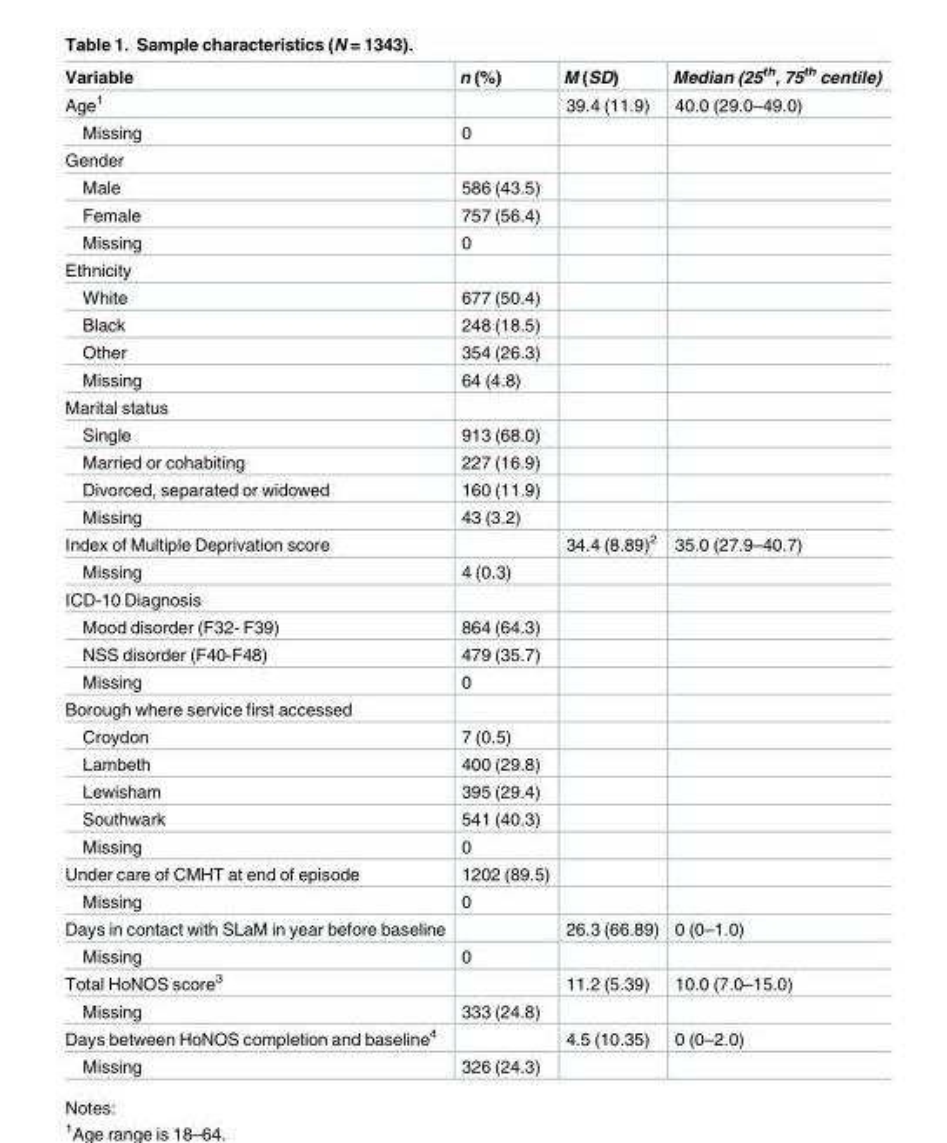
<table><thead><tr><td>Variable</td><td>n (%)</td><td>M (SD)</td><td>Median (25<sup>th</sup>, 75<sup>th</sup> centile)</td></tr></thead><tbody><tr><td>Age<sup>1</sup></td><td></td><td>39.4 (11.9)</td><td>40.0 (29.0–49.0)</td></tr><tr><td>Missing</td><td>0</td><td></td><td></td></tr><tr><td colspan="4">Gender</td></tr><tr><td>Male</td><td>586 (43.5)</td><td></td><td></td></tr><tr><td>Female</td><td>757 (56.4)</td><td></td><td></td></tr><tr><td>Missing</td><td>0</td><td></td><td></td></tr><tr><td colspan="4">Ethnicity</td></tr><tr><td>White</td><td>677 (50.4)</td><td></td><td></td></tr><tr><td>Black</td><td>248 (18.5)</td><td></td><td></td></tr><tr><td>Other</td><td>354 (26.3)</td><td></td><td></td></tr><tr><td>Missing</td><td>64 (4.8)</td><td></td><td></td></tr><tr><td colspan="4">Marital status</td></tr><tr><td>Single</td><td>913 (68.0)</td><td></td><td></td></tr><tr><td>Married or cohabiting</td><td>227 (16.9)</td><td></td><td></td></tr><tr><td>Divorced, separated or widowed</td><td>160 (11.9)</td><td></td><td></td></tr><tr><td>Missing</td><td>43 (3.2)</td><td></td><td></td></tr><tr><td>Index of Multiple Deprivation score</td><td></td><td>34.4 (8.89)<sup>2</sup></td><td>35.0 (27.9–40.7)</td></tr><tr><td>Missing</td><td>4 (0.3)</td><td></td><td></td></tr><tr><td colspan="4">ICD-10 Diagnosis</td></tr><tr><td>Mood disorder (F32- F39)</td><td>864 (64.3)</td><td></td><td></td></tr><tr><td>NSS disorder (F40-F48)</td><td>479 (35.7)</td><td></td><td></td></tr><tr><td>Missing</td><td>0</td><td></td><td></td></tr><tr><td colspan="4">Borough where service first accessed</td></tr><tr><td>Croydon</td><td>7 (0.5)</td><td></td><td></td></tr><tr><td>Lambeth</td><td>400 (29.8)</td><td></td><td></td></tr><tr><td>Lewisham</td><td>395 (29.4)</td><td></td><td></td></tr><tr><td>Southwark</td><td>541 (40.3)</td><td></td><td></td></tr><tr><td>Missing</td><td>0</td><td></td><td></td></tr><tr><td>Under care of CMHT at end of episode</td><td>1202 (89.5)</td><td></td><td></td></tr><tr><td>Missing</td><td>0</td><td></td><td></td></tr><tr><td>Days in contact with SLaM in year before baseline</td><td></td><td>26.3 (66.89)</td><td>0 (0–1.0)</td></tr><tr><td>Missing</td><td>0</td><td></td><td></td></tr><tr><td>Total HoNOS score<sup>3</sup></td><td></td><td>11.2 (5.39)</td><td>10.0 (7.0–15.0)</td></tr><tr><td>Missing</td><td>333 (24.8)</td><td></td><td></td></tr><tr><td>Days between HoNOS completion and baseline<sup>4</sup></td><td></td><td>4.5 (10.35)</td><td>0 (0–2.0)</td></tr><tr><td>Missing</td><td>326 (24.3)</td><td></td><td></td></tr></tbody></table>